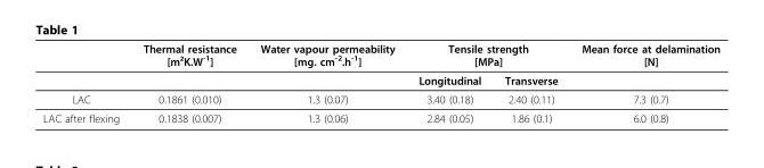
<table><thead><tr><td rowspan="2"></td><td rowspan="2">Thermal resistance [m²K.W<sup>-1</sup>]</td><td rowspan="2">Water vapour permeability [mg. cm<sup>-2</sup>.h<sup>-1</sup>]</td><td colspan="2">Tensile strength [MPa]</td><td rowspan="2">Mean force at delamination [N]</td></tr><tr><td>Longitudinal</td><td>Transverse</td></tr></thead><tbody><tr><td>LAC</td><td>0.1861 (0.010)</td><td>1.3 (0.07)</td><td>3.40 (0.18)</td><td>2.40 (0.11)</td><td>7.3 (0.7)</td></tr><tr><td>LAC after flexing</td><td>0.1838 (0.007)</td><td>1.3 (0.06)</td><td>2.84 (0.05)</td><td>1.86 (0.1)</td><td>6.0 (0.8)</td></tr></tbody></table>